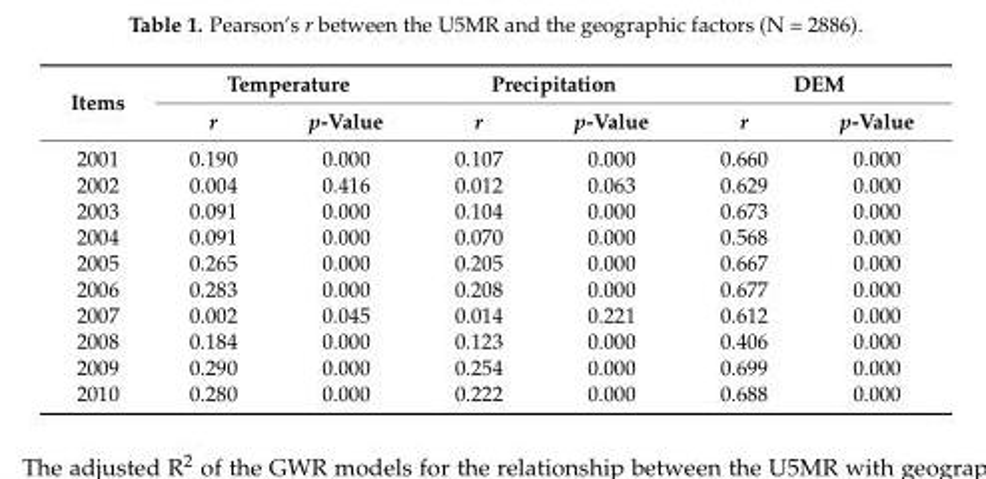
<table><thead><tr><td rowspan="2">Items</td><td colspan="2">Temperature</td><td colspan="2">Precipitation</td><td colspan="2">DEM</td></tr><tr><td>r</td><td>p-Value</td><td>r</td><td>p-Value</td><td>r</td><td>p-Value</td></tr></thead><tbody><tr><td>2001</td><td>0.190</td><td>0.000</td><td>0.107</td><td>0.000</td><td>0.660</td><td>0.000</td></tr><tr><td>2002</td><td>0.004</td><td>0.416</td><td>0.012</td><td>0.063</td><td>0.629</td><td>0.000</td></tr><tr><td>2003</td><td>0.091</td><td>0.000</td><td>0.104</td><td>0.000</td><td>0.673</td><td>0.000</td></tr><tr><td>2004</td><td>0.091</td><td>0.000</td><td>0.070</td><td>0.000</td><td>0.568</td><td>0.000</td></tr><tr><td>2005</td><td>0.265</td><td>0.000</td><td>0.205</td><td>0.000</td><td>0.667</td><td>0.000</td></tr><tr><td>2006</td><td>0.283</td><td>0.000</td><td>0.208</td><td>0.000</td><td>0.677</td><td>0.000</td></tr><tr><td>2007</td><td>0.002</td><td>0.045</td><td>0.014</td><td>0.221</td><td>0.612</td><td>0.000</td></tr><tr><td>2008</td><td>0.184</td><td>0.000</td><td>0.123</td><td>0.000</td><td>0.406</td><td>0.000</td></tr><tr><td>2009</td><td>0.290</td><td>0.000</td><td>0.254</td><td>0.000</td><td>0.699</td><td>0.000</td></tr><tr><td>2010</td><td>0.280</td><td>0.000</td><td>0.222</td><td>0.000</td><td>0.688</td><td>0.000</td></tr></tbody></table>